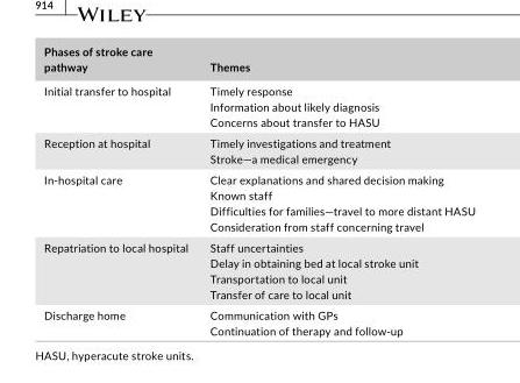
<table><thead><tr><td>Phases of stroke care pathway</td><td>Themes</td></tr></thead><tbody><tr><td>Initial transfer to hospital</td><td>Timely response Information about likely diagnosis Concerns about transfer to HASU</td></tr><tr><td>Reception at hospital</td><td>Timely investigations and treatment Stroke—a medical emergency</td></tr><tr><td>In- hospital care</td><td>Clear explanations and shared decision making Known staff Difficulties for families—travel to more distant HASU Consideration from staff concerning travel</td></tr><tr><td>Repatriation to local hospital</td><td>Staff uncertainties Delay in obtaining bed at local stroke unit Transportation to local unit Transfer of care to local unit</td></tr><tr><td>Discharge home</td><td>Communication with GPs Continuation of therapy and follow- up</td></tr></tbody></table>